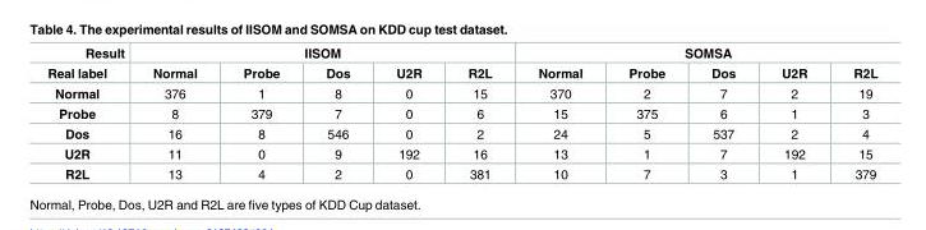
<table><thead><tr><td rowspan="2">Result Real label</td><td colspan="5">IISOM</td><td colspan="5">SOMSA</td></tr><tr><td>Normal</td><td>Probe</td><td>Dos</td><td>U2R</td><td>R2L</td><td>Normal</td><td>Probe</td><td>Dos</td><td>U2R</td><td>R2L</td></tr></thead><tbody><tr><td>Normal</td><td>376</td><td>1</td><td>8</td><td>0</td><td>15</td><td>370</td><td>2</td><td>7</td><td>2</td><td>19</td></tr><tr><td>Probe</td><td>8</td><td>379</td><td>7</td><td>0</td><td>6</td><td>15</td><td>375</td><td>6</td><td>1</td><td>3</td></tr><tr><td>Dos</td><td>16</td><td>8</td><td>546</td><td>0</td><td>2</td><td>24</td><td>5</td><td>537</td><td>2</td><td>4</td></tr><tr><td>U2R</td><td>11</td><td>0</td><td>9</td><td>192</td><td>16</td><td>13</td><td>1</td><td>7</td><td>192</td><td>15</td></tr><tr><td>R2L</td><td>13</td><td>4</td><td>2</td><td>0</td><td>381</td><td>10</td><td>7</td><td>3</td><td>1</td><td>379</td></tr></tbody></table>